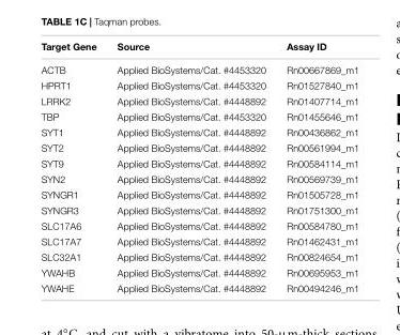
<table><thead><tr><td>Target Gene</td><td>Source</td><td>Assay ID</td></tr></thead><tbody><tr><td>ACTB</td><td>Applied BioSystems/Cat. #4453320</td><td>Rn00667869_m1</td></tr><tr><td>HPRT1</td><td>Applied BioSystems/Cat. #4453320</td><td>Rn01527840_m1</td></tr><tr><td>LRRK2</td><td>Applied BioSystems/Cat. #4448892</td><td>Rn01407714_m1</td></tr><tr><td>TBP</td><td>Applied BioSystems/Cat. #4453320</td><td>Rn01455646_m1</td></tr><tr><td>SYT1</td><td>Applied BioSystems/Cat. #4448892</td><td>Rn00436862_m1</td></tr><tr><td>SYT2</td><td>Applied BioSystems/Cat. #4448892</td><td>Rn00561994_m1</td></tr><tr><td>SYT9</td><td>Applied BioSystems/Cat. #4448892</td><td>Rn00584114_m1</td></tr><tr><td>SYN2</td><td>Applied BioSystems/Cat. #4448892</td><td>Rn00569739_m1</td></tr><tr><td>SYNGR1</td><td>Applied BioSystems/Cat. #4448892</td><td>Rn01505728_m1</td></tr><tr><td>SYNGR3</td><td>Applied BioSystems/Cat. #4448892</td><td>Rn01751300_m1</td></tr><tr><td>SLC17A6</td><td>Applied BioSystems/Cat. #4448892</td><td>Rn00584780_m1</td></tr><tr><td>SLC17A7</td><td>Applied BioSystems/Cat. #4448892</td><td>Rn01462431_m1</td></tr><tr><td>SLC32A1</td><td>Applied BioSystems/Cat. #4448892</td><td>Rn00824654_m1</td></tr><tr><td>YWAHB</td><td>Applied BioSystems/Cat. #4448892</td><td>Rn00695953_m1</td></tr><tr><td>YWAHE</td><td>Applied BioSystems/Cat. #4448892</td><td>Rn00494246_m1</td></tr></tbody></table>